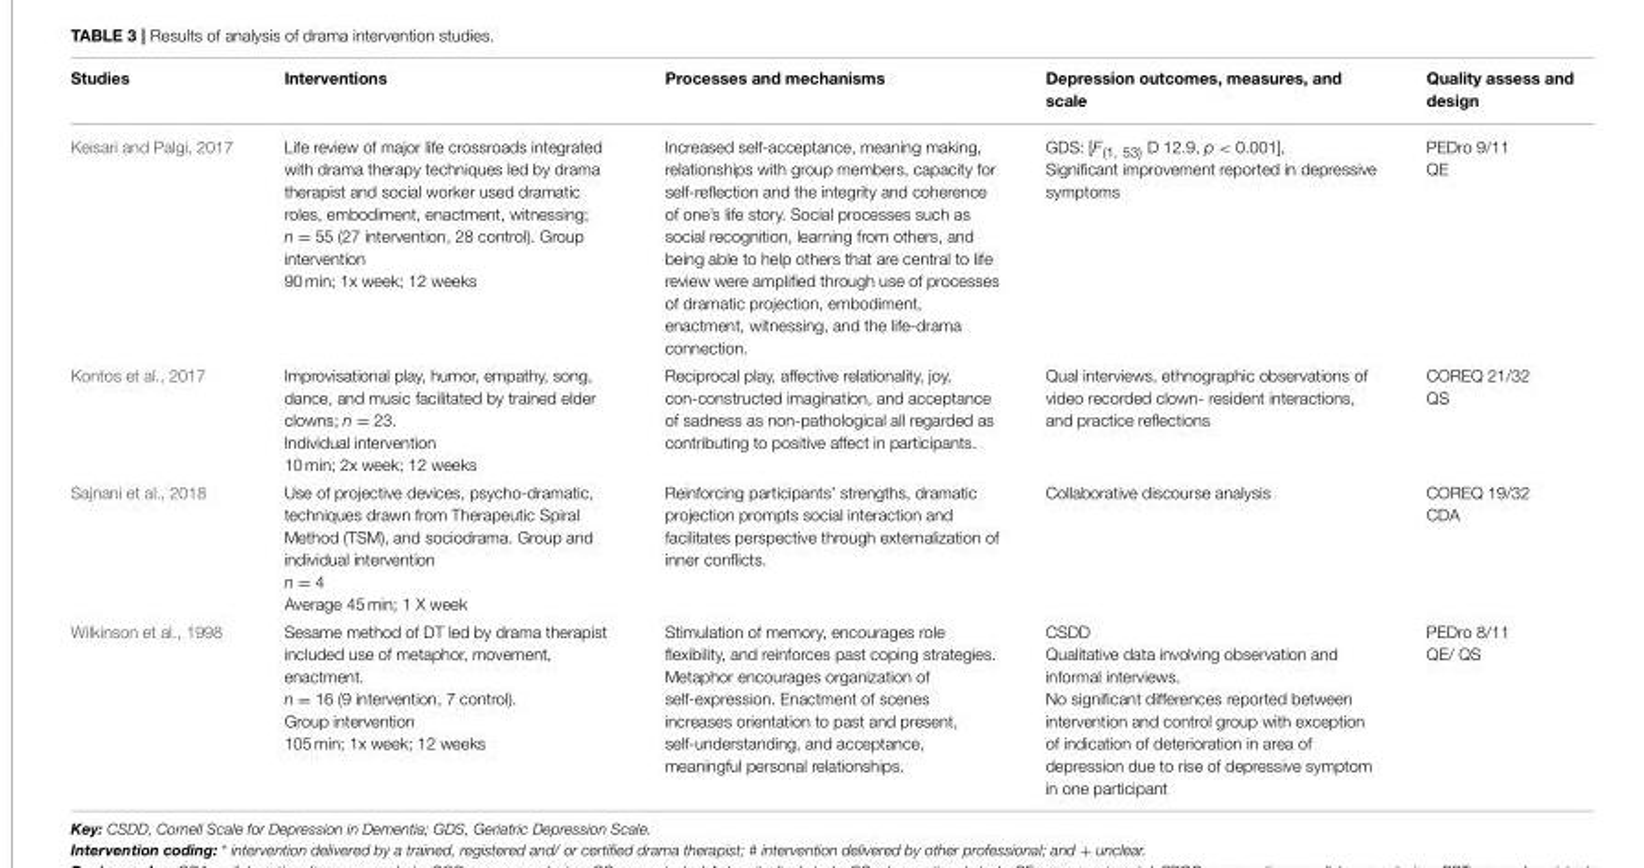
<table><thead><tr><td>Studies</td><td>Interventions</td><td>Processes and mechanisms</td><td>Depression outcomes, measures, and scale</td><td>Quality assess and design</td></tr></thead><tbody><tr><td>Keisari and Palgi, 2017</td><td>Life review of major life crossroads integrated with drama therapy techniques led by drama therapist and social worker used dramatic roles, embodiment, enactment, witnessing; n = 55 (27 intervention, 28 control). Group intervention 90 min; 1x week; 12 weeks</td><td>Increased self-acceptance, meaning making, relationships with group members, capacity for self-reflection and the integrity and coherence of one’s life story. Social processes such as social recognition, learning from others, and being able to help others that are central to life review were amplified through use of processes of dramatic projection, embodiment, enactment, witnessing, and the life-drama connection.</td><td>GDS: [F<sub>(1, 53)</sub> D 12.9, p &lt; 0.001], Significant improvement reported in depressive symptoms</td><td>PEDro 9/11 QE</td></tr><tr><td>Kontos et al., 2017</td><td>Improvisational play, humor, empathy, song, dance, and music facilitated by trained elder clowns; n = 23. Individual intervention 10 min; 2x week; 12 weeks</td><td>Reciprocal play, affective relationality, joy, con-constructed imagination, and acceptance of sadness as non-pathological all regarded as contributing to positive affect in participants.</td><td>Qual interviews, ethnographic observations of video recorded clown- resident interactions, and practice reflections</td><td>COREQ 21/32 QS</td></tr><tr><td>Sajnani et al., 2018</td><td>Use of projective devices, psycho-dramatic, techniques drawn from Therapeutic Spiral Method (TSM), and sociodrama. Group and individual intervention n = 4 Average 45 min; 1 X week</td><td>Reinforcing participants’ strengths, dramatic projection prompts social interaction and facilitates perspective through externalization of inner conflicts.</td><td>Collaborative discourse analysis</td><td>COREQ 19/32 CDA</td></tr><tr><td>Wilkinson et al., 1998</td><td>Sesame method of DT led by drama therapist included use of metaphor, movement, enactment. n = 16 (9 intervention, 7 control). Group intervention 105 min; 1x week; 12 weeks</td><td>Stimulation of memory, encourages role flexibility, and reinforces past coping strategies. Metaphor encourages organization of self-expression. Enactment of scenes increases orientation to past and present, self-understanding, and acceptance, meaningful personal relationships.</td><td>CSDD Qualitative data involving observation and informal interviews. No significant differences reported between intervention and control group with exception of indication of deterioration in area of depression due to rise of depressive symptom in one participant</td><td>PEDro 8/11 QE/ QS</td></tr></tbody></table>